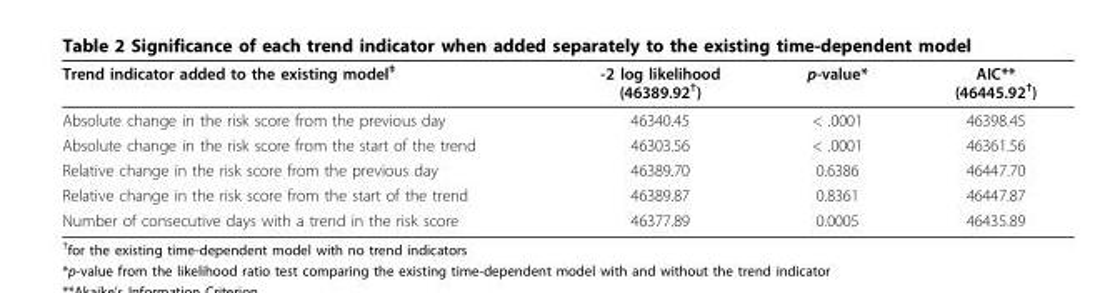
<table><thead><tr><td>Trend indicator added to the existing model<sup>‡</sup></td><td>-2 log likelihood (46389.92<sup>†</sup>)</td><td>p-value*</td><td>AIC** (46445.92<sup>†</sup>)</td></tr></thead><tbody><tr><td>Absolute change in the risk score from the previous day</td><td>46340.45</td><td>&lt; .0001</td><td>46398.45</td></tr><tr><td>Absolute change in the risk score from the start of the trend</td><td>46303.56</td><td>&lt; .0001</td><td>46361.56</td></tr><tr><td>Relative change in the risk score from the previous day</td><td>46389.70</td><td>0.6386</td><td>46447.70</td></tr><tr><td>Relative change in the risk score from the start of the trend</td><td>46389.87</td><td>0.8361</td><td>46447.87</td></tr><tr><td>Number of consecutive days with a trend in the risk score</td><td>46377.89</td><td>0.0005</td><td>46435.89</td></tr></tbody></table>